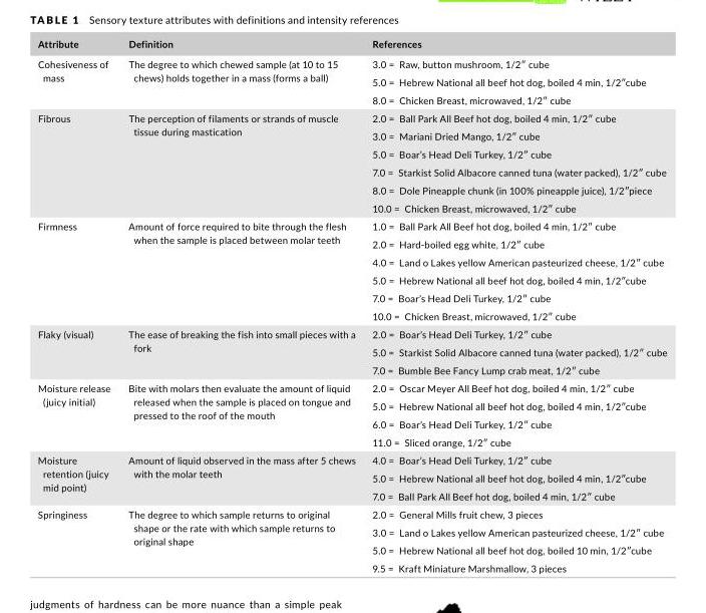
<table><thead><tr><td>Attribute</td><td>Definition</td><td>References</td></tr></thead><tbody><tr><td rowspan="3">Cohesiveness of mass</td><td rowspan="3">The degree to which chewed sample (at 10 to 15 chews) holds together in a mass (forms a ball)</td><td>3.0 = Raw, button mushroom, 1/2″ cube</td></tr><tr><td>5.0 = Hebrew National all beef hot dog, boiled 4 min, 1/2″cube</td></tr><tr><td>8.0 = Chicken Breast, microwaved, 1/2″ cube</td></tr><tr><td rowspan="6">Fibrous</td><td rowspan="6">The perception of filaments or strands of muscle tissue during mastication</td><td>2.0 = Ball Park All Beef hot dog, boiled 4 min, 1/2″ cube</td></tr><tr><td>3.0 = Mariani Dried Mango, 1/2″ cube</td></tr><tr><td>5.0 = Boar’s Head Deli Turkey, 1/2″ cube</td></tr><tr><td>7.0 = Starkist Solid Albacore canned tuna (water packed), 1/2″ cube</td></tr><tr><td>8.0 = Dole Pineapple chunk (in 100% pineapple juice), 1/2″piece</td></tr><tr><td>10.0 = Chicken Breast, microwaved, 1/2″ cube</td></tr><tr><td rowspan="6">Firmness</td><td rowspan="6">Amount of force required to bite through the flesh when the sample is placed between molar teeth</td><td>1.0 = Ball Park All Beef hot dog, boiled 4 min, 1/2″ cube</td></tr><tr><td>2.0 = Hard- boiled egg white, 1/2″ cube</td></tr><tr><td>4.0 = Land o Lakes yellow American pasteurized cheese, 1/2″ cube</td></tr><tr><td>5.0 = Hebrew National all beef hot dog, boiled 4 min, 1/2″cube</td></tr><tr><td>7.0 = Boar’s Head Deli Turkey, 1/2″ cube</td></tr><tr><td>10.0 = Chicken Breast, microwaved, 1/2″ cube</td></tr><tr><td rowspan="3">Flaky (visual)</td><td rowspan="3">The ease of breaking the fish into small pieces with a fork</td><td>2.0 = Boar’s Head Deli Turkey, 1/2″ cube</td></tr><tr><td>5.0 = Starkist Solid Albacore canned tuna (water packed), 1/2″ cube</td></tr><tr><td>7.0 = Bumble Bee Fancy Lump crab meat, 1/2″ cube</td></tr><tr><td rowspan="4">Moisture release (juicy initial)</td><td rowspan="4">Bite with molars then evaluate the amount of liquid released when the sample is placed on tongue and pressed to the roof of the mouth</td><td>2.0 = Oscar Meyer All Beef hot dog, boiled 4 min, 1/2″ cube</td></tr><tr><td>5.0 = Hebrew National all beef hot dog, boiled 4 min, 1/2″cube</td></tr><tr><td>6.0 = Boar’s Head Deli Turkey, 1/2″ cube</td></tr><tr><td>11.0 = Sliced orange, 1/2″ cube</td></tr><tr><td rowspan="3">Moisture retention (juicy mid point)</td><td rowspan="3">Amount of liquid observed in the mass after 5 chews with the molar teeth</td><td>4.0 = Boar’s Head Deli Turkey, 1/2″ cube</td></tr><tr><td>5.0 = Hebrew National all beef hot dog, boiled 4 min, 1/2″cube</td></tr><tr><td>7.0 = Ball Park All Beef hot dog, boiled 4 min, 1/2″ cube</td></tr><tr><td rowspan="4">Springiness</td><td rowspan="4">The degree to which sample returns to original shape or the rate with which sample returns to original shape</td><td>2.0 = General Mills fruit chew, 3 pieces</td></tr><tr><td>3.0 = Land o Lakes yellow American pasteurized cheese, 1/2″ cube</td></tr><tr><td>5.0 = Hebrew National all beef hot dog, boiled 10 min, 1/2″cube</td></tr><tr><td>9.5 = Kraft Miniature Marshmallow, 3 pieces</td></tr></tbody></table>